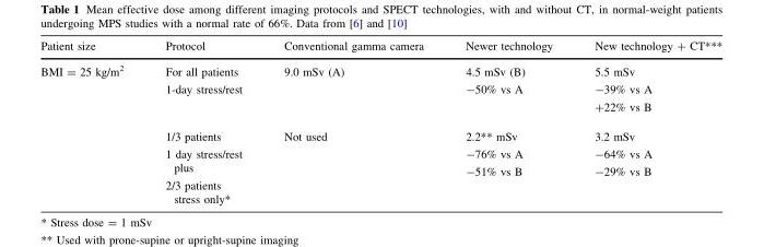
<table><thead><tr><td>Patient size</td><td>Protocol</td><td>Conventional gamma camera</td><td>Newer technology</td><td>New technology + CT***</td></tr></thead><tbody><tr><td rowspan="2">BMI = 25 kg/m<sup>2</sup></td><td>For all patients 1-day stress/rest</td><td>9.0 mSv (A)</td><td>4.5 mSv (B) -50% vs A</td><td>5.5 mSv -39% vs A +22% vs B</td></tr><tr><td>1/3 patients 1 day stress/rest plus 2/3 patients stress only*</td><td>Not used</td><td>2.2** mSv -76% vs A -51% vs B</td><td>3.2 mSv -64% vs A -29% vs B</td></tr></tbody></table>